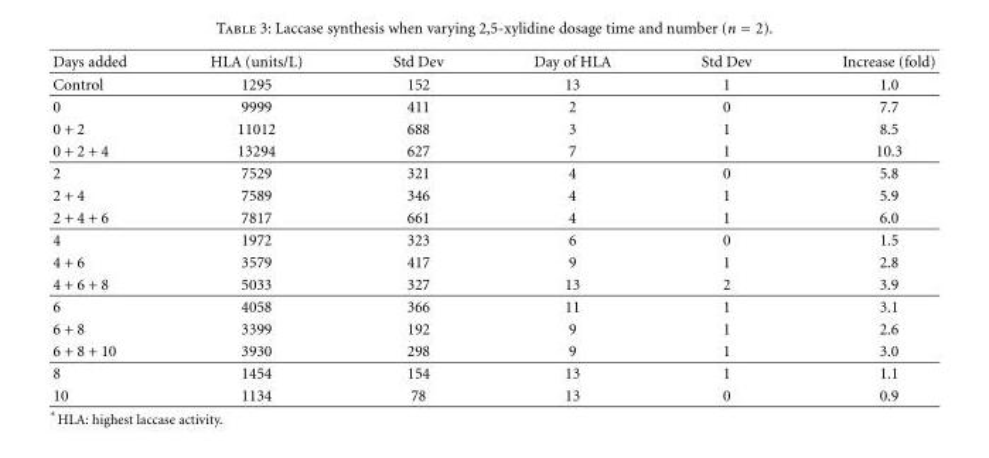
<table><thead><tr><td>Days added</td><td>HLA (units/L)</td><td>Std Dev</td><td>Day of HLA</td><td>Std Dev</td><td>Increase (fold)</td></tr></thead><tbody><tr><td>Control</td><td>1295</td><td>152</td><td>13</td><td>1</td><td>1.0</td></tr><tr><td>0</td><td>9999</td><td>411</td><td>2</td><td>0</td><td>7.7</td></tr><tr><td>0 + 2</td><td>11012</td><td>688</td><td>3</td><td>1</td><td>8.5</td></tr><tr><td>0 + 2 + 4</td><td>13294</td><td>627</td><td>7</td><td>1</td><td>10.3</td></tr><tr><td>2</td><td>7529</td><td>321</td><td>4</td><td>0</td><td>5.8</td></tr><tr><td>2 + 4</td><td>7589</td><td>346</td><td>4</td><td>1</td><td>5.9</td></tr><tr><td>2 + 4 + 6</td><td>7817</td><td>661</td><td>4</td><td>1</td><td>6.0</td></tr><tr><td>4</td><td>1972</td><td>323</td><td>6</td><td>0</td><td>1.5</td></tr><tr><td>4 + 6</td><td>3579</td><td>417</td><td>9</td><td>1</td><td>2.8</td></tr><tr><td>4 + 6 + 8</td><td>5033</td><td>327</td><td>13</td><td>2</td><td>3.9</td></tr><tr><td>6</td><td>4058</td><td>366</td><td>11</td><td>1</td><td>3.1</td></tr><tr><td>6 + 8</td><td>3399</td><td>192</td><td>9</td><td>1</td><td>2.6</td></tr><tr><td>6 + 8 + 10</td><td>3930</td><td>298</td><td>9</td><td>1</td><td>3.0</td></tr><tr><td>8</td><td>1454</td><td>154</td><td>13</td><td>1</td><td>1.1</td></tr><tr><td>10</td><td>1134</td><td>78</td><td>13</td><td>0</td><td>0.9</td></tr></tbody></table>